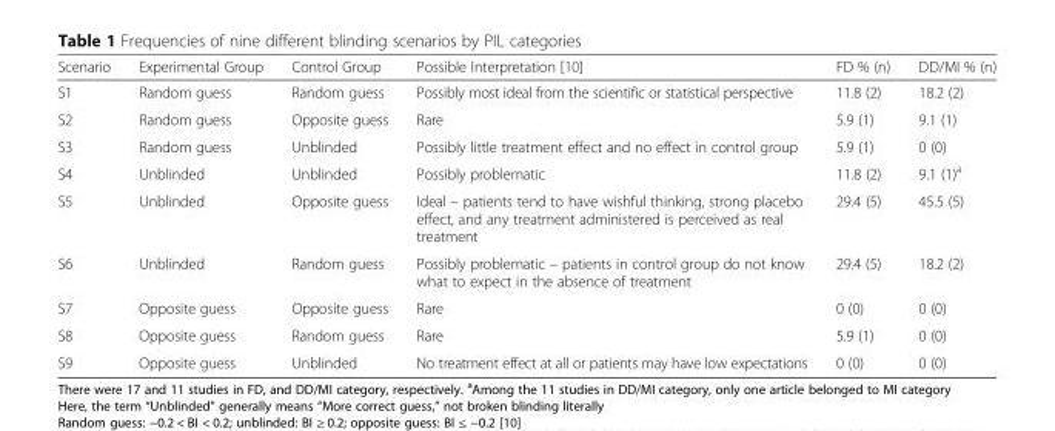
<table><thead><tr><td>Scenario</td><td>Experimental Group</td><td>Control Group</td><td>Possible Interpretation [10]</td><td>FD % (n)</td><td>DD/MI % (n)</td></tr></thead><tbody><tr><td>S1</td><td>Random guess</td><td>Random guess</td><td>Possibly most ideal from the scientific or statistical perspective</td><td>11.8 (2)</td><td>18.2 (2)</td></tr><tr><td>S2</td><td>Random guess</td><td>Opposite guess</td><td>Rare</td><td>5.9 (1)</td><td>9.1 (1)</td></tr><tr><td>S3</td><td>Random guess</td><td>Unblinded</td><td>Possibly little treatment effect and no effect in control group</td><td>5.9 (1)</td><td>0 (0)</td></tr><tr><td>S4</td><td>Unblinded</td><td>Unblinded</td><td>Possibly problematic</td><td>11.8 (2)</td><td>9.1 (1)<sup>a</sup></td></tr><tr><td>S5</td><td>Unblinded</td><td>Opposite guess</td><td>Ideal – patients tend to have wishful thinking, strong placebo effect, and any treatment administered is perceived as real treatment</td><td>29.4 (5)</td><td>45.5 (5)</td></tr><tr><td>S6</td><td>Unblinded</td><td>Random guess</td><td>Possibly problematic – patients in control group do not know what to expect in the absence of treatment</td><td>29.4 (5)</td><td>18.2 (2)</td></tr><tr><td>S7</td><td>Opposite guess</td><td>Opposite guess</td><td>Rare</td><td>0 (0)</td><td>0 (0)</td></tr><tr><td>S8</td><td>Opposite guess</td><td>Random guess</td><td>Rare</td><td>5.9 (1)</td><td>0 (0)</td></tr><tr><td>S9</td><td>Opposite guess</td><td>Unblinded</td><td>No treatment effect at all or patients may have low expectations</td><td>0 (0)</td><td>0 (0)</td></tr></tbody></table>